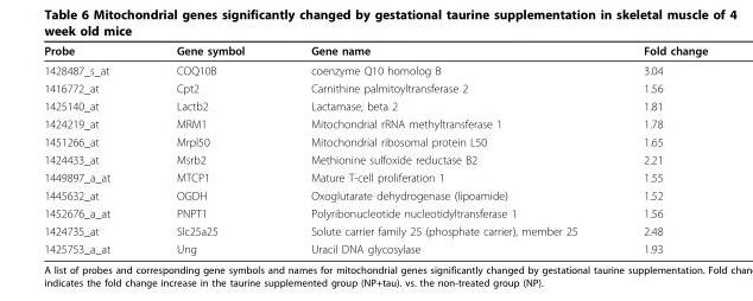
<table><thead><tr><td>Probe</td><td>Gene symbol</td><td>Gene name</td><td>Fold change</td></tr></thead><tbody><tr><td>1428487_s_at</td><td>COQ10B</td><td>coenzyme Q10 homolog B</td><td>3.04</td></tr><tr><td>1416772_at</td><td>Cpt2</td><td>Carnithine palmitoyltransferase 2</td><td>1.56</td></tr><tr><td>1425140_at</td><td>Lactb2</td><td>Lactamase, beta 2</td><td>1.81</td></tr><tr><td>1424219_at</td><td>MRM1</td><td>Mitochondrial rRNA methyltransferase 1</td><td>1.78</td></tr><tr><td>1451266_at</td><td>Mrpl50</td><td>Mitochondrial ribosomal protein L50</td><td>1.65</td></tr><tr><td>1424433_at</td><td>Msrb2</td><td>Methionine sulfoxide reductase B2</td><td>2.21</td></tr><tr><td>1449897_a_at</td><td>MTCP1</td><td>Mature T-cell proliferation 1</td><td>1.55</td></tr><tr><td>1445632_at</td><td>OGDH</td><td>Oxoglutarate dehydrogenase (lipoamide)</td><td>1.52</td></tr><tr><td>1452676_a_at</td><td>PNPT1</td><td>Polyribonucleotide nucleotidyltransferase 1</td><td>1.56</td></tr><tr><td>1424735_at</td><td>Slc25a25</td><td>Solute carrier family 25 (phosphate carrier), member 25</td><td>2.48</td></tr><tr><td>1425753_a_at</td><td>Ung</td><td>Uracil DNA glycosylase</td><td>1.93</td></tr></tbody></table>